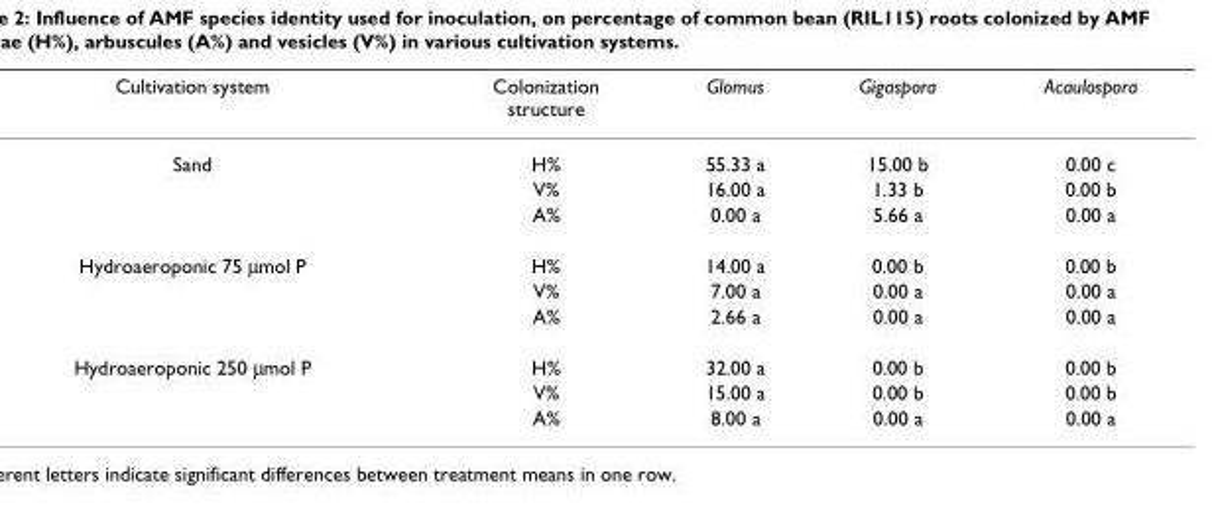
<table><thead><tr><td>Cultivation system</td><td>Colonization structure</td><td>Glomus</td><td>Gigaspora</td><td>Acaulospora</td></tr></thead><tbody><tr><td rowspan="3">Sand</td><td>H%</td><td>55.33 a</td><td>15.00 b</td><td>0.00 c</td></tr><tr><td>V%</td><td>16.00 a</td><td>1.33 b</td><td>0.00 b</td></tr><tr><td>A%</td><td>0.00 a</td><td>5.66 a</td><td>0.00 a</td></tr><tr><td rowspan="3">Hydroaeroponic 75 μmol P</td><td>H%</td><td>14.00 a</td><td>0.00 b</td><td>0.00 b</td></tr><tr><td>V%</td><td>7.00 a</td><td>0.00 a</td><td>0.00 a</td></tr><tr><td>A%</td><td>2.66 a</td><td>0.00 a</td><td>0.00 a</td></tr><tr><td rowspan="3">Hydroaeroponic 250 μmol P</td><td>H%</td><td>32.00 a</td><td>0.00 b</td><td>0.00 b</td></tr><tr><td>V%</td><td>15.00 a</td><td>0.00 b</td><td>0.00 b</td></tr><tr><td>A%</td><td>8.00 a</td><td>0.00 a</td><td>0.00 a</td></tr></tbody></table>